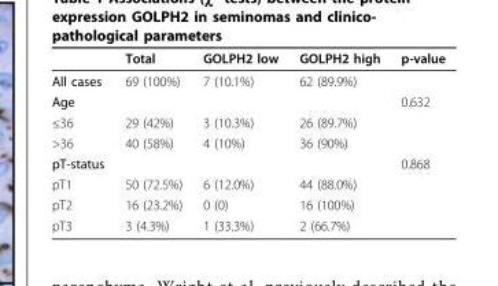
<table><thead><tr><td></td><td>Total</td><td>GOLPH2 low</td><td>GOLPH2 high</td><td>p-value</td></tr></thead><tbody><tr><td>All cases</td><td>69 (100%)</td><td>7 (10.1%)</td><td>62 (89.9%)</td><td></td></tr><tr><td>Age</td><td></td><td></td><td></td><td>0.632</td></tr><tr><td>≤36</td><td>29 (42%)</td><td>3 (10.3%)</td><td>26 (89.7%)</td><td></td></tr><tr><td>&gt;36</td><td>40 (58%)</td><td>4 (10%)</td><td>36 (90%)</td><td></td></tr><tr><td>pT-status</td><td></td><td></td><td></td><td>0.868</td></tr><tr><td>pT1</td><td>50 (72.5%)</td><td>6 (12.0%)</td><td>44 (88.0%)</td><td></td></tr><tr><td>pT2</td><td>16 (23.2%)</td><td>0 (0)</td><td>16 (100%)</td><td></td></tr><tr><td>pT3</td><td>3 (4.3%)</td><td>1 (33.3%)</td><td>2 (66.7%)</td><td></td></tr></tbody></table>